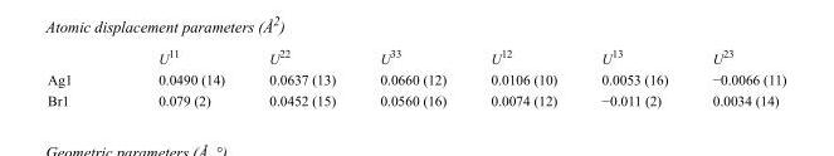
<table><thead><tr><td></td><td>U<sup>11</sup></td><td>U<sup>22</sup></td><td>U<sup>33</sup></td><td>U<sup>12</sup></td><td>U<sup>13</sup></td><td>U<sup>23</sup></td></tr></thead><tbody><tr><td>Ag1</td><td>0.0490 (14)</td><td>0.0637 (13)</td><td>0.0660 (12)</td><td>0.0106 (10)</td><td>0.0053 (16)</td><td>−0.0066 (11)</td></tr><tr><td>Br1</td><td>0.079 (2)</td><td>0.0452 (15)</td><td>0.0560 (16)</td><td>0.0074 (12)</td><td>−0.011 (2)</td><td>0.0034 (14)</td></tr></tbody></table>